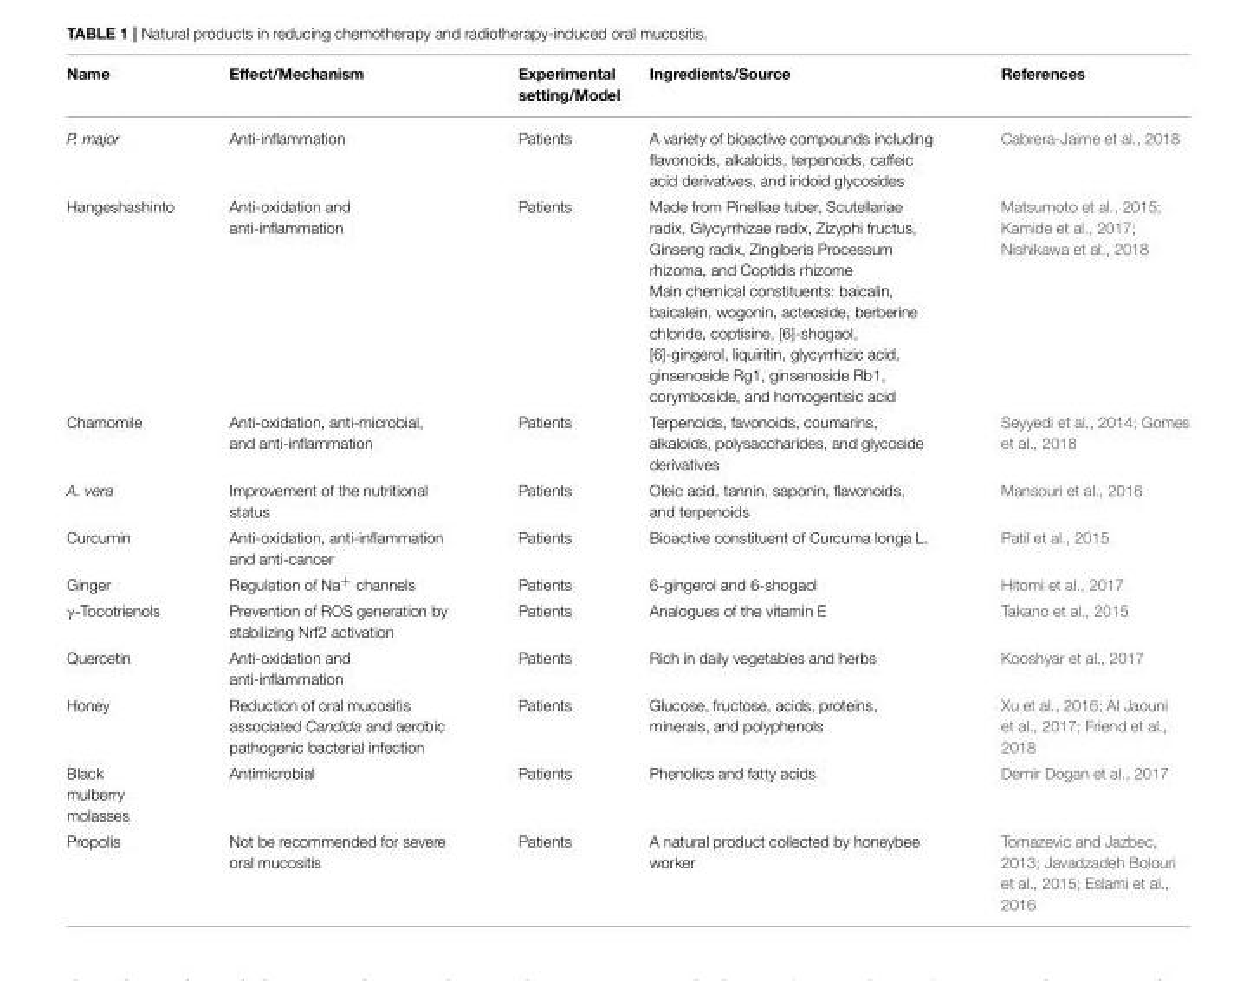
<table><thead><tr><td>Name</td><td>Effect/Mechanism</td><td>Experimental setting/Model</td><td>Ingredients/Source</td><td>References</td></tr></thead><tbody><tr><td>P. major</td><td>Anti-inflammation</td><td>Patients</td><td>A variety of bioactive compounds including flavonoids, alkaloids, terpenoids, caffeic acid derivatives, and iridoid glycosides</td><td>Cabrera-Jaime et al., 2018</td></tr><tr><td>Hangeshashinto</td><td>Anti-oxidation and anti-inflammation</td><td>Patients</td><td>Made from Pinelliae tuber, Scutellariae radix, Glycyrrhizae radix, Zizyphi fructus, Ginseng radix, Zingiberis Processum rhizoma, and Coptidis rhizome Main chemical constituents: baicalin, baicalein, wogonin, acteoside, berberine chloride, coptisine, [6]-shogaol, [6]-gingerol, liquiritin, glycyrrhizic acid, ginsenoside Rg1, ginsenoside Rb1, corymboside, and homogentisic acid</td><td>Matsumoto et al., 2015; Kamide et al., 2017; Nishikawa et al., 2018</td></tr><tr><td>Chamomile</td><td>Anti-oxidation, anti-microbial, and anti-inflammation</td><td>Patients</td><td>Terpenoids, favonoids, coumarins, alkaloids, polysaccharides, and glycoside derivatives</td><td>Seyyedi et al., 2014; Gomes et al., 2018</td></tr><tr><td>A. vera</td><td>Improvement of the nutritional status</td><td>Patients</td><td>Oleic acid, tannin, saponin, flavonoids, and terpenoids</td><td>Mansouri et al., 2016</td></tr><tr><td>Curcumin</td><td>Anti-oxidation, anti-inflammation and anti-cancer</td><td>Patients</td><td>Bioactive constituent of Curcuma longa L.</td><td>Patil et al., 2015</td></tr><tr><td>Ginger</td><td>Regulation of Na<sup>+</sup> channels</td><td>Patients</td><td>6-gingerol and 6-shogaol</td><td>Hitomi et al., 2017</td></tr><tr><td>γ-Tocotrienols</td><td>Prevention of ROS generation by stabilizing Nrf2 activation</td><td>Patients</td><td>Analogues of the vitamin E</td><td>Takano et al., 2015</td></tr><tr><td>Quercetin</td><td>Anti-oxidation and anti-inflammation</td><td>Patients</td><td>Rich in daily vegetables and herbs</td><td>Kooshyar et al., 2017</td></tr><tr><td>Honey</td><td>Reduction of oral mucositis associated Candida and aerobic pathogenic bacterial infection</td><td>Patients</td><td>Glucose, fructose, acids, proteins, minerals, and polyphenols</td><td>Xu et al., 2016; Al Jaouni et al., 2017; Friend et al., 2018</td></tr><tr><td>Black mulberry molasses</td><td>Antimicrobial</td><td>Patients</td><td>Phenolics and fatty acids</td><td>Demir Dogan et al., 2017</td></tr><tr><td>Propolis</td><td>Not be recommended for severe oral mucositis</td><td>Patients</td><td>A natural product collected by honeybee worker</td><td>Tomazevic and Jazbec, 2013; Javadzadeh Bolouri et al., 2015; Eslami et al., 2016</td></tr></tbody></table>